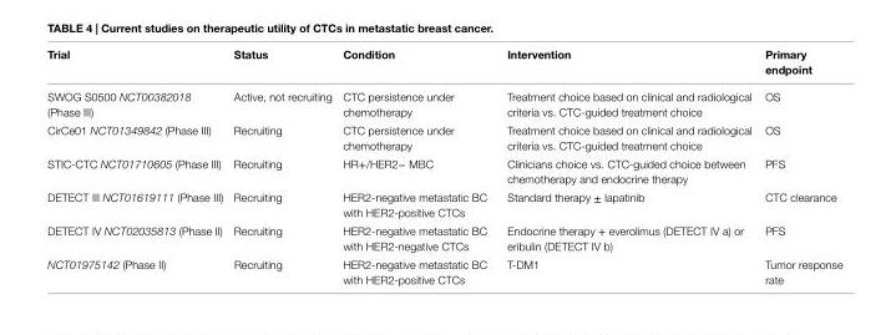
<table><thead><tr><td>Trial</td><td>Status</td><td>Condition</td><td>intervention</td><td>Primary endpoint</td></tr></thead><tbody><tr><td>SWOG S0500 NCT00382018 (Phase III)</td><td>Active, not recruiting</td><td>CTC persistence under chemotherapy</td><td>Treatment choice based on clinical and radiological criteria vs. CTC-guided treatment choice</td><td>OS</td></tr><tr><td>CirCe01 NCT01349842 (Phase III)</td><td>Recruiting</td><td>CTC persistence under chemotherapy</td><td>Treatment choice based on clinical and radiological criteria vs. CTC-guided treatment choice</td><td>OS</td></tr><tr><td>STIC-CTC NCT01710605 (Phase III)</td><td>Recruiting</td><td>HR+/HER2− MBC</td><td>Clinicians choice vs. CTC-guided choice between chemotherapy and endocrine therapy</td><td>PFS</td></tr><tr><td>DETECT III NCT01619111 (Phase III)</td><td>Recruiting</td><td>HER2-negative metastatic BC with HER2-positive CTCs</td><td>Standard therapy ± lapatinib</td><td>CTC clearance</td></tr><tr><td>DETECT IV NCT02035813 (Phase II)</td><td>Recruiting</td><td>HER2-negative metastatic BC with HER2-negative CTCs</td><td>Endocrine therapy + everolimus (DETECT IV a) or eribulin (DETECT IV b)</td><td>PFS</td></tr><tr><td>NCT01975142 (Phase II)</td><td>Recruiting</td><td>HER2-negative metastatic BC with HER2-positive CTCs</td><td>T-DM1</td><td>Tumor response rate</td></tr></tbody></table>